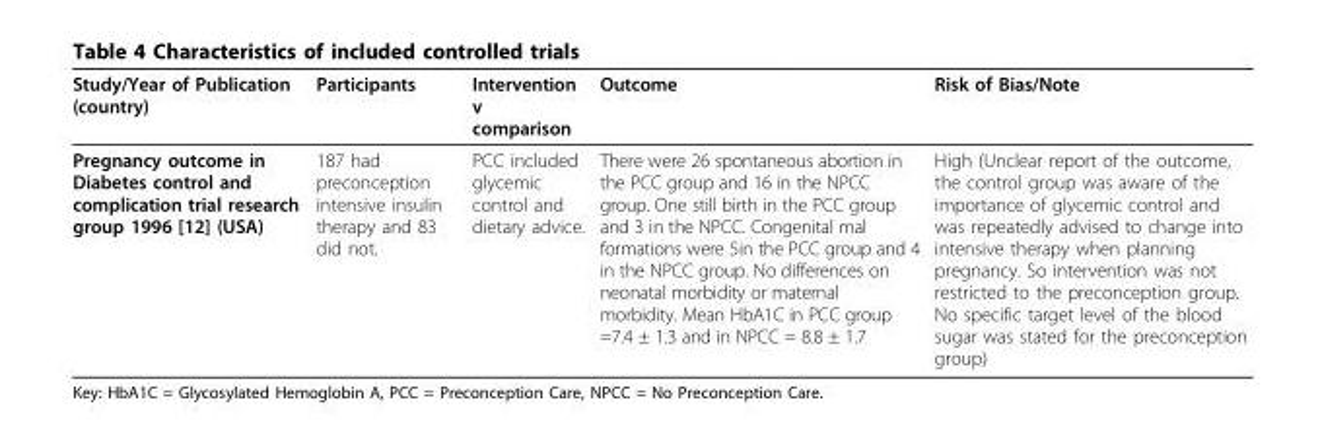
<table><thead><tr><td>Study/Year of Publication (country)</td><td>Participants</td><td>Intervention v comparison</td><td>Outcome</td><td>Risk of Bias/Note</td></tr></thead><tbody><tr><td>Pregnancy outcome in Diabetes control and complication trial research group 1996 [12] (USA)</td><td>187 had preconception intensive insulin therapy and 83 did not.</td><td>PCC included glycemic control and dietary advice.</td><td>There were 26 spontaneous abortion in the PCC group and 16 in the NPCC group. One still birth in the PCC group and 3 in the NPCC. Congenital mal formations were 5in the PCC group and 4 in the NPCC group. No differences on neonatal morbidity or maternal morbidity. Mean HbA1C in PCC group =7.4 ± 1.3 and in NPCC = 8.8 ± 1.7</td><td>High (Unclear report of the outcome, the control group was aware of the importance of glycemic control and was repeatedly advised to change into intensive therapy when planning pregnancy. So intervention was not restricted to the preconception group. No specific target level of the blood sugar was stated for the preconception group)</td></tr></tbody></table>